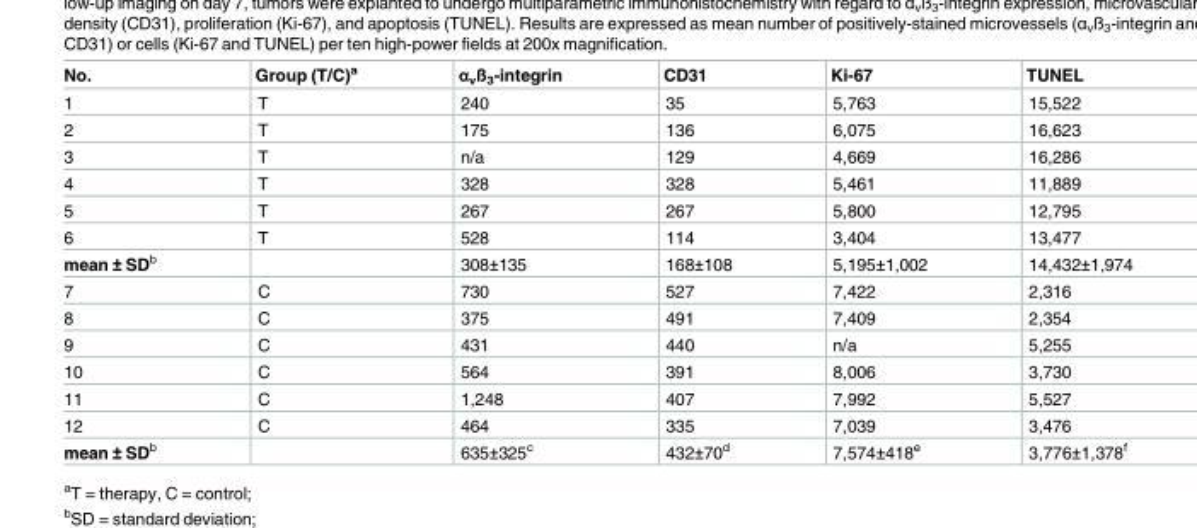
<table><thead><tr><td>No.</td><td>Group (T/C)<sup>a</sup></td><td>α<sub>v</sub>ß<sub>3</sub>-integrin</td><td>CD31</td><td>Ki-67</td><td>TUNEL</td></tr></thead><tbody><tr><td>1</td><td>T</td><td>240</td><td>35</td><td>5,763</td><td>15,522</td></tr><tr><td>2</td><td>T</td><td>175</td><td>136</td><td>6,075</td><td>16,623</td></tr><tr><td>3</td><td>T</td><td>n/a</td><td>129</td><td>4,669</td><td>16,286</td></tr><tr><td>4</td><td>T</td><td>328</td><td>328</td><td>5,461</td><td>11,889</td></tr><tr><td>5</td><td>T</td><td>267</td><td>267</td><td>5,800</td><td>12,795</td></tr><tr><td>6</td><td>T</td><td>528</td><td>114</td><td>3,404</td><td>13,477</td></tr><tr><td>mean ± SD<sup>b</sup></td><td></td><td>308±135</td><td>168±108</td><td>5,195±1,002</td><td>14,432±1,974</td></tr><tr><td>7</td><td>C</td><td>730</td><td>527</td><td>7,422</td><td>2,316</td></tr><tr><td>8</td><td>C</td><td>375</td><td>491</td><td>7,409</td><td>2,354</td></tr><tr><td>9</td><td>C</td><td>431</td><td>440</td><td>n/a</td><td>5,255</td></tr><tr><td>10</td><td>C</td><td>564</td><td>391</td><td>8,006</td><td>3,730</td></tr><tr><td>11</td><td>C</td><td>1,248</td><td>407</td><td>7,992</td><td>5,527</td></tr><tr><td>12</td><td>C</td><td>464</td><td>335</td><td>7,039</td><td>3,476</td></tr><tr><td>mean ± SD<sup>b</sup></td><td></td><td>635±325<sup>c</sup></td><td>432±70<sup>d</sup></td><td>7,574±418<sup>e</sup></td><td>3,776±1,378<sup>f</sup></td></tr></tbody></table>